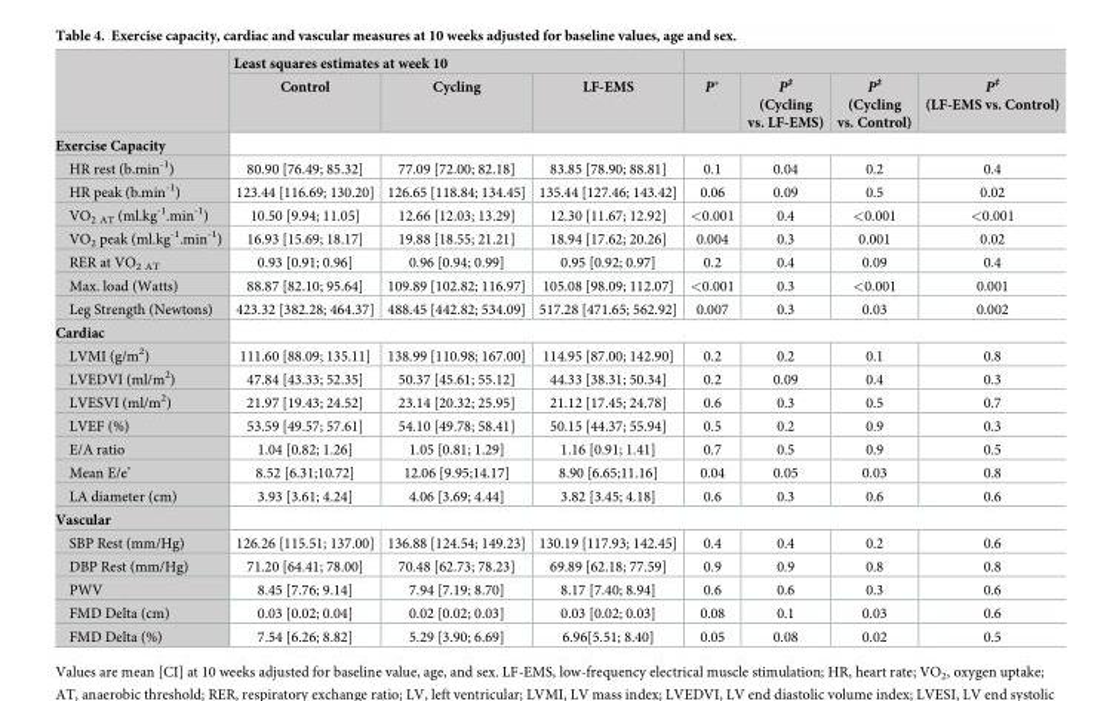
<table><thead><tr><td rowspan="2"></td><td colspan="3">Least squares estimates at week 10</td><td rowspan="2">P*</td><td rowspan="2">P<sup>‡</sup> (Cycling vs. LF-EMS)</td><td rowspan="2">P<sup>‡</sup> (Cycling vs. Control)</td><td rowspan="2">P<sup>‡</sup> (LF-EMS vs. Control)</td></tr><tr><td>Control</td><td>Cycling</td><td>LF-EMS</td></tr></thead><tbody><tr><td colspan="8">Exercise Capacity</td></tr><tr><td>HR rest (b.min<sup>-1</sup>)</td><td>80.90 [76.49; 85.32]</td><td>77.09 [72.00; 82.18]</td><td>83.85 [78.90; 88.81]</td><td>0.1</td><td>0.04</td><td>0.2</td><td>0.4</td></tr><tr><td>HR peak (b.min<sup>-1</sup>)</td><td>123.44 [116.69; 130.20]</td><td>126.65 [118.84; 134.45]</td><td>135.44 [127.46; 143.42]</td><td>0.06</td><td>0.09</td><td>0.5</td><td>0.02</td></tr><tr><td>VO<sub>2 AT</sub> (ml.kg<sup>-1</sup>.min<sup>-1</sup>)</td><td>10.50 [9.94; 11.05]</td><td>12.66 [12.03; 13.29]</td><td>12.30 [11.67; 12.92]</td><td>&lt;0.001</td><td>0.4</td><td>&lt;0.001</td><td>&lt;0.001</td></tr><tr><td>VO<sub>2</sub> peak (ml.kg<sup>-1</sup>.min<sup>-1</sup>)</td><td>16.93 [15.69; 18.17]</td><td>19.88 [18.55; 21.21]</td><td>18.94 [17.62; 20.26]</td><td>0.004</td><td>0.3</td><td>0.001</td><td>0.02</td></tr><tr><td>RER at VO<sub>2 AT</sub></td><td>0.93 [0.91; 0.96]</td><td>0.96 [0.94; 0.99]</td><td>0.95 [0.92; 0.97]</td><td>0.2</td><td>0.4</td><td>0.09</td><td>0.4</td></tr><tr><td>Max. load (Watts)</td><td>88.87 [82.10; 95.64]</td><td>109.89 [102.82; 116.97]</td><td>105.08 [98.09; 112.07]</td><td>&lt;0.001</td><td>0.3</td><td>&lt;0.001</td><td>0.001</td></tr><tr><td>Leg Strength (Newtons)</td><td>423.32 [382.28; 464.37]</td><td>488.45 [442.82; 534.09]</td><td>517.28 [471.65; 562.92]</td><td>0.007</td><td>0.3</td><td>0.03</td><td>0.002</td></tr><tr><td colspan="8">Cardiac</td></tr><tr><td>LVMI (g/m<sup>2</sup>)</td><td>111.60 [88.09; 135.11]</td><td>138.99 [110.98; 167.00]</td><td>114.95 [87.00; 142.90]</td><td>0.2</td><td>0.2</td><td>0.1</td><td>0.8</td></tr><tr><td>LVEDVI (ml/m<sup>2</sup>)</td><td>47.84 [43.33; 52.35]</td><td>50.37 [45.61; 55.12]</td><td>44.33 [38.31; 50.34]</td><td>0.2</td><td>0.09</td><td>0.4</td><td>0.3</td></tr><tr><td>LVESVI (ml/m<sup>2</sup>)</td><td>21.97 [19.43; 24.52]</td><td>23.14 [20.32; 25.95]</td><td>21.12 [17.45; 24.78]</td><td>0.6</td><td>0.3</td><td>0.5</td><td>0.7</td></tr><tr><td>LVEF (%)</td><td>53.59 [49.57; 57.61]</td><td>54.10 [49.78; 58.41]</td><td>50.15 [44.37; 55.94]</td><td>0.5</td><td>0.2</td><td>0.9</td><td>0.3</td></tr><tr><td>E/A ratio</td><td>1.04 [0.82; 1.26]</td><td>1.05 [0.81; 1.29]</td><td>1.16 [0.91; 1.41]</td><td>0.7</td><td>0.5</td><td>0.9</td><td>0.5</td></tr><tr><td>Mean E/e’</td><td>8.52 [6.31;10.72]</td><td>12.06 [9.95;14.17]</td><td>8.90 [6.65;11.16]</td><td>0.04</td><td>0.05</td><td>0.03</td><td>0.8</td></tr><tr><td>LA diameter (cm)</td><td>3.93 [3.61; 4.24]</td><td>4.06 [3.69; 4.44]</td><td>3.82 [3.45; 4.18]</td><td>0.6</td><td>0.3</td><td>0.6</td><td>0.6</td></tr><tr><td colspan="8">Vascular</td></tr><tr><td>SBP Rest (mm/Hg)</td><td>126.26 [115.51; 137.00]</td><td>136.88 [124.54; 149.23]</td><td>130.19 [117.93; 142.45]</td><td>0.4</td><td>0.4</td><td>0.2</td><td>0.6</td></tr><tr><td>DBP Rest (mm/Hg)</td><td>71.20 [64.41; 78.00]</td><td>70.48 [62.73; 78.23]</td><td>69.89 [62.18; 77.59]</td><td>0.9</td><td>0.9</td><td>0.8</td><td>0.8</td></tr><tr><td>PWV</td><td>8.45 [7.76; 9.14]</td><td>7.94 [7.19; 8.70]</td><td>8.17 [7.40; 8.94]</td><td>0.6</td><td>0.6</td><td>0.3</td><td>0.6</td></tr><tr><td>FMD Delta (cm)</td><td>0.03 [0.02; 0.04]</td><td>0.02 [0.02; 0.03]</td><td>0.03 [0.02; 0.03]</td><td>0.08</td><td>0.1</td><td>0.03</td><td>0.6</td></tr><tr><td>FMD Delta (%)</td><td>7.54 [6.26; 8.82]</td><td>5.29 [3.90; 6.69]</td><td>6.96[5.51; 8.40]</td><td>0.05</td><td>0.08</td><td>0.02</td><td>0.5</td></tr></tbody></table>